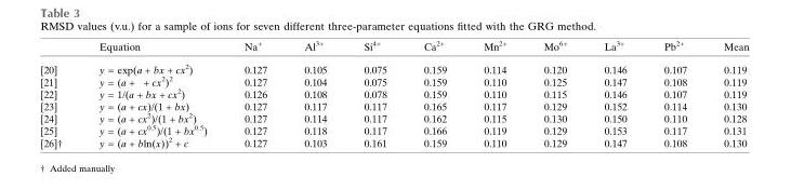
<table><thead><tr><td></td><td>Equation</td><td>Na<sup>+</sup></td><td>Al<sup>3+</sup></td><td>Si<sup>4+</sup></td><td>Ca<sup>2+</sup></td><td>Mn<sup>2+</sup></td><td>Mo<sup>6+</sup></td><td>La<sup>3+</sup></td><td>Pb<sup>2+</sup></td><td>Mean</td></tr></thead><tbody><tr><td>[20]</td><td>y = exp(a + bx + cx<sup>2</sup>)</td><td>0.127</td><td>0.105</td><td>0.075</td><td>0.159</td><td>0.114</td><td>0.120</td><td>0.146</td><td>0.107</td><td>0.119</td></tr><tr><td>[21]</td><td>y = (a + + cx<sup>2</sup>)<sup>2</sup></td><td>0.127</td><td>0.104</td><td>0.075</td><td>0.159</td><td>0.110</td><td>0.125</td><td>0.147</td><td>0.108</td><td>0.119</td></tr><tr><td>[22]</td><td>y = 1/(a + bx + cx<sup>2</sup>)</td><td>0.126</td><td>0.108</td><td>0.078</td><td>0.159</td><td>0.110</td><td>0.115</td><td>0.146</td><td>0.107</td><td>0.119</td></tr><tr><td>[23]</td><td>y = (a + cx)/(1 + bx)</td><td>0.127</td><td>0.117</td><td>0.117</td><td>0.165</td><td>0.117</td><td>0.129</td><td>0.152</td><td>0.114</td><td>0.130</td></tr><tr><td>[24]</td><td>y = (a + cx<sup>2</sup>)/(1 + bx<sup>2</sup>)</td><td>0.127</td><td>0.114</td><td>0.117</td><td>0.162</td><td>0.115</td><td>0.130</td><td>0.150</td><td>0.110</td><td>0.128</td></tr><tr><td>[25]</td><td>y = (a + cx<sup>0.5</sup>)/(1 + bx<sup>0.5</sup>)</td><td>0.127</td><td>0.118</td><td>0.117</td><td>0.166</td><td>0.119</td><td>0.129</td><td>0.153</td><td>0.117</td><td>0.131</td></tr><tr><td>[26]†</td><td>y = (a + bln(x))<sup>2</sup> + c</td><td>0.127</td><td>0.103</td><td>0.161</td><td>0.159</td><td>0.110</td><td>0.129</td><td>0.147</td><td>0.108</td><td>0.130</td></tr></tbody></table>